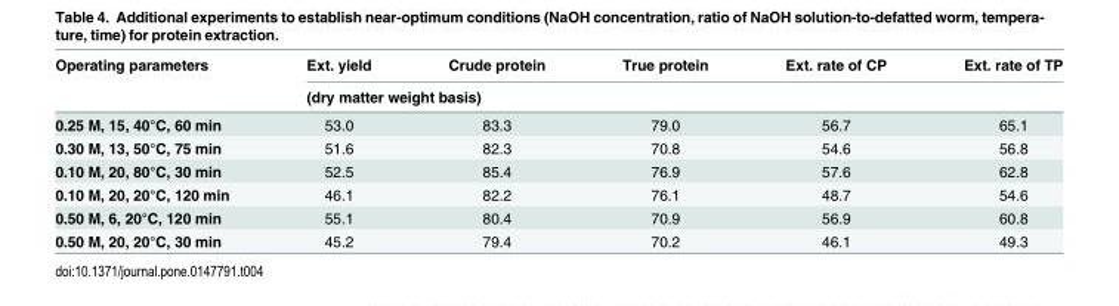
<table><thead><tr><td rowspan="2">Operating parameters</td><td>Ext. yield</td><td>Crude protein</td><td>True protein</td><td>Ext. rate of CP</td><td>Ext. rate of TP</td></tr><tr><td colspan="5">(dry matter weight basis)</td></tr></thead><tbody><tr><td>0.25 M, 15, 40°C, 60 min</td><td>53.0</td><td>83.3</td><td>79.0</td><td>56.7</td><td>65.1</td></tr><tr><td>0.30 M, 13, 50°C, 75 min</td><td>51.6</td><td>82.3</td><td>70.8</td><td>54.6</td><td>56.8</td></tr><tr><td>0.10 M, 20, 80°C, 30 min</td><td>52.5</td><td>85.4</td><td>76.9</td><td>57.6</td><td>62.8</td></tr><tr><td>0.10 M, 20, 20°C, 120 min</td><td>46.1</td><td>82.2</td><td>76.1</td><td>48.7</td><td>54.6</td></tr><tr><td>0.50 M, 6, 20°C, 120 min</td><td>55.1</td><td>80.4</td><td>70.9</td><td>56.9</td><td>60.8</td></tr><tr><td>0.50 M, 20, 20°C, 30 min</td><td>45.2</td><td>79.4</td><td>70.2</td><td>46.1</td><td>49.3</td></tr></tbody></table>